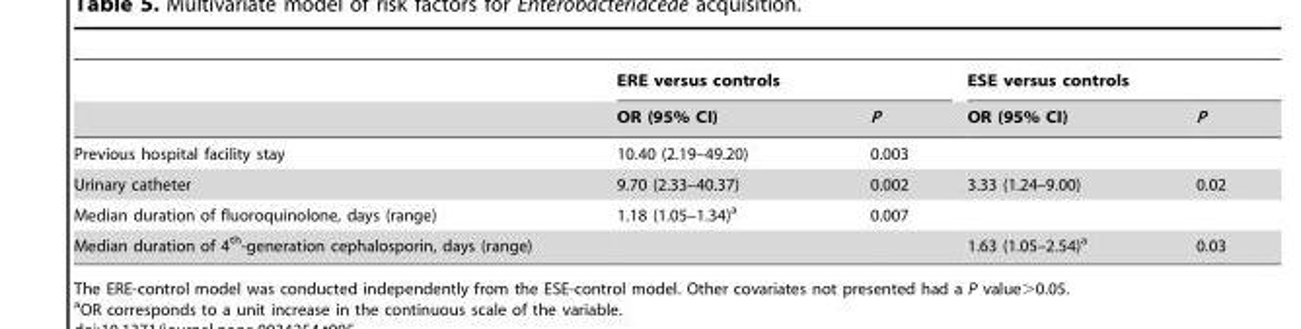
<table><thead><tr><td rowspan="2"></td><td colspan="2">ERE versus controls</td><td colspan="2">ESE versus controls</td></tr><tr><td>OR (95% CI)</td><td>P</td><td>OR (95% CI)</td><td>P</td></tr></thead><tbody><tr><td>Previous hospital facility stay</td><td>10.40 (2.19–49.20)</td><td>0.003</td><td></td><td></td></tr><tr><td>Urinary catheter</td><td>9.70 (2.33–40.37)</td><td>0.002</td><td>3.33 (1.24–9.00)</td><td>0.02</td></tr><tr><td>Median duration of fluoroquinolone, days (range)</td><td>1.18 (1.05–1.34)<sup>a</sup></td><td>0.007</td><td></td><td></td></tr><tr><td>Median duration of 4<sup>th</sup>-generation cephalosporin, days (range)</td><td></td><td></td><td>1.63 (1.05–2.54)<sup>a</sup></td><td>0.03</td></tr></tbody></table>